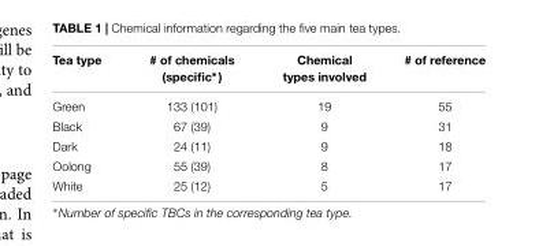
<table><thead><tr><td>Tea type</td><td># of chemicals (specific∗)</td><td>Chemical types involved</td><td># of reference</td></tr></thead><tbody><tr><td>Green</td><td>133 (101)</td><td>19</td><td>55</td></tr><tr><td>Black</td><td>67 (39)</td><td>9</td><td>31</td></tr><tr><td>Dark</td><td>24 (11)</td><td>9</td><td>18</td></tr><tr><td>Oolong</td><td>55 (39)</td><td>8</td><td>17</td></tr><tr><td>White</td><td>25 (12)</td><td>5</td><td>17</td></tr></tbody></table>